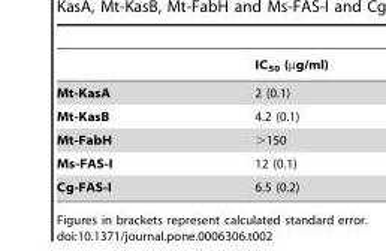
<table><thead><tr><td></td><td>IC<sub>50</sub> (µg/ml)</td></tr></thead><tbody><tr><td>Mt-KasA</td><td>2 (0.1)</td></tr><tr><td>Mt-KasB</td><td>4.2 (0.1)</td></tr><tr><td>Mt-FabH</td><td>&gt;150</td></tr><tr><td>Ms-FAS-I</td><td>12 (0.1)</td></tr><tr><td>Cg-FAS-I</td><td>6.5 (0.2)</td></tr></tbody></table>